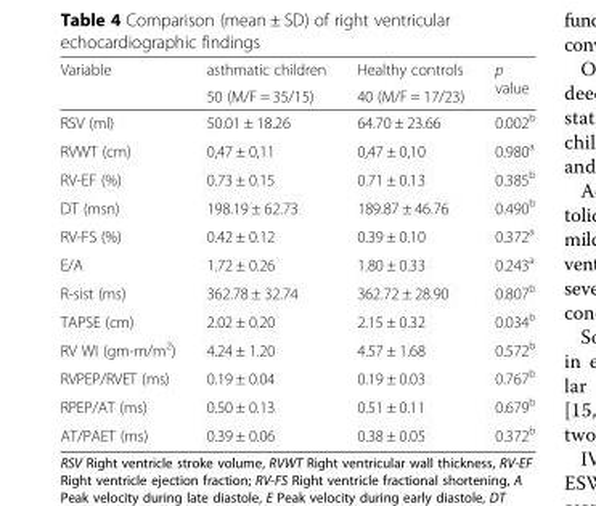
<table><thead><tr><td rowspan="2">Variable</td><td rowspan="2">asthmatic children 50 (M/F = 35/15)</td><td rowspan="2">Healthy controls 40 (M/F = 17/23)</td><td rowspan="2">p value</td></tr><tr></tr></thead><tbody><tr><td>RSV (ml)</td><td>50.01 ± 18.26</td><td>64.70 ± 23.66</td><td>0.002<sup>b</sup></td></tr><tr><td>RVWT (cm)</td><td>0,47 ± 0,11</td><td>0,47 ± 0,10</td><td>0.980<sup>a</sup></td></tr><tr><td>RV-EF (%)</td><td>0.73 ± 0.15</td><td>0.71 ± 0.13</td><td>0.385<sup>b</sup></td></tr><tr><td>DT (msn)</td><td>198.19 ± 62.73</td><td>189.87 ± 46.76</td><td>0.490<sup>b</sup></td></tr><tr><td>RV-FS (%)</td><td>0.42 ± 0.12</td><td>0.39 ± 0.10</td><td>0.372<sup>a</sup></td></tr><tr><td>E/A</td><td>1.72 ± 0.26</td><td>1.80 ± 0.33</td><td>0.243<sup>a</sup></td></tr><tr><td>R-sist (ms)</td><td>362.78 ± 32.74</td><td>362.72 ± 28.90</td><td>0.807<sup>b</sup></td></tr><tr><td>TAPSE (cm)</td><td>2.02 ± 0.20</td><td>2.15 ± 0.32</td><td>0.034<sup>b</sup></td></tr><tr><td>RV WI (gm-m/m<sup>2</sup>)</td><td>4.24 ± 1.20</td><td>4.57 ± 1.68</td><td>0.572<sup>b</sup></td></tr><tr><td>RVPEP/RVET (ms)</td><td>0.19 ± 0.04</td><td>0.19 ± 0.03</td><td>0.767<sup>b</sup></td></tr><tr><td>RPEP/AT (ms)</td><td>0.50 ± 0.13</td><td>0.51 ± 0.11</td><td>0.679<sup>b</sup></td></tr><tr><td>AT/PAET (ms)</td><td>0.39 ± 0.06</td><td>0.38 ± 0.05</td><td>0.372<sup>b</sup></td></tr></tbody></table>